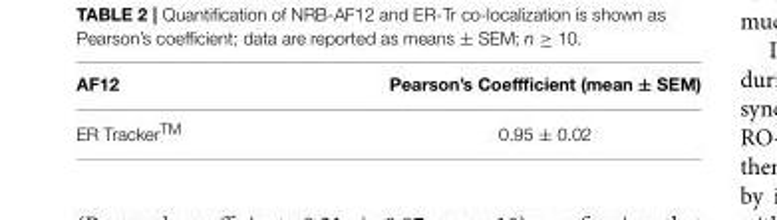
<table><thead><tr><td>AF12</td><td>Pearson’s Coeffficient (mean ± SEM)</td></tr></thead><tbody><tr><td>ER Tracker<sup>TM</sup></td><td>0.95 ± 0.02</td></tr></tbody></table>